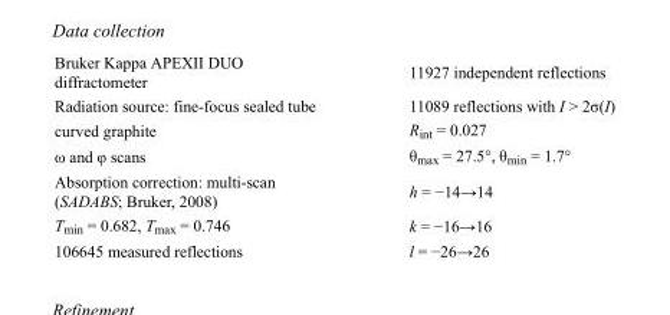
<table><tbody><tr><td>Bruker Kappa APEXII DUO diffractometer</td><td>11927 independent reflections</td></tr><tr><td>Radiation source: fine-focus sealed tube</td><td>11089 reflections with I &gt; 2σ(I)</td></tr><tr><td>curved graphite</td><td>R<sub>int</sub> = 0.027</td></tr><tr><td>ω and φ scans</td><td>θ<sub>max</sub> = 27.5°, θ<sub>min</sub> = 1.7°</td></tr><tr><td>Absorption correction: multi-scan (SADABS; Bruker, 2008)</td><td>h = −14→14</td></tr><tr><td>T<sub>min</sub> = 0.682, T<sub>max</sub> = 0.746</td><td>k = −16→16</td></tr><tr><td>106645 measured reflections</td><td>l = −26→26</td></tr></tbody></table>